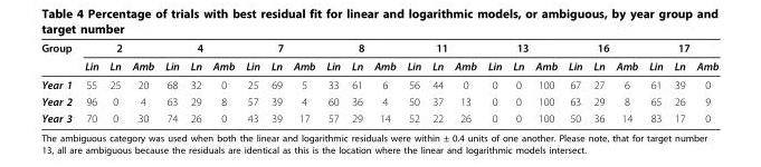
<table><tbody><tr><td rowspan="2">Group</td><td colspan="3">2</td><td colspan="3">4</td><td colspan="3">7</td><td colspan="3">8</td><td colspan="3">11</td><td colspan="3">13</td><td colspan="3">16</td><td colspan="3">17</td></tr><tr><td>Lin</td><td>Ln</td><td>Amb</td><td>Lin</td><td>Ln</td><td>Amb</td><td>Lin</td><td>Ln</td><td>Amb</td><td>Lin</td><td>Ln</td><td>Amb</td><td>Lin</td><td>Ln</td><td>Amb</td><td>Lin</td><td>Ln</td><td>Amb</td><td>Lin</td><td>Ln</td><td>Amb</td><td>Lin</td><td>Ln</td><td>Amb</td></tr><tr><td>Year 1</td><td>55</td><td>25</td><td>20</td><td>68</td><td>32</td><td>0</td><td>25</td><td>69</td><td>5</td><td>33</td><td>61</td><td>6</td><td>56</td><td>44</td><td>0</td><td>0</td><td>0</td><td>100</td><td>67</td><td>27</td><td>6</td><td>61</td><td>39</td><td>0</td></tr><tr><td>Year 2</td><td>96</td><td>0</td><td>4</td><td>63</td><td>29</td><td>8</td><td>57</td><td>39</td><td>4</td><td>60</td><td>36</td><td>4</td><td>50</td><td>37</td><td>13</td><td>0</td><td>0</td><td>100</td><td>63</td><td>29</td><td>8</td><td>65</td><td>26</td><td>9</td></tr><tr><td>Year 3</td><td>70</td><td>0</td><td>30</td><td>74</td><td>26</td><td>0</td><td>43</td><td>39</td><td>17</td><td>57</td><td>29</td><td>14</td><td>52</td><td>22</td><td>26</td><td>0</td><td>0</td><td>100</td><td>50</td><td>36</td><td>14</td><td>83</td><td>17</td><td>0</td></tr></tbody></table>